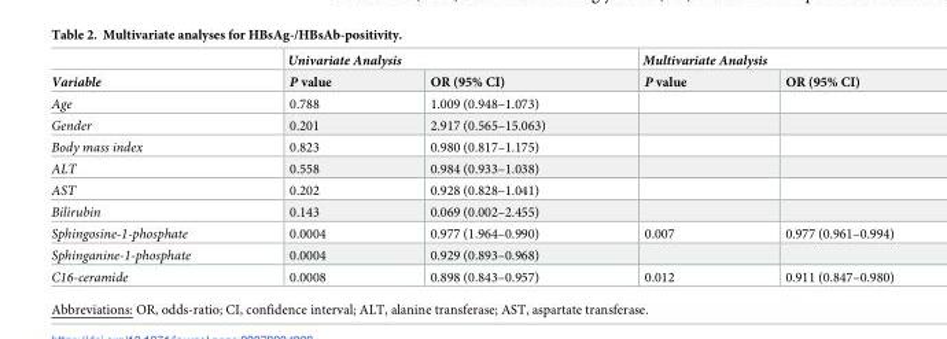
<table><thead><tr><td rowspan="2">Variable</td><td colspan="2">Univariate Analysis</td><td colspan="2">Multivariate Analysis</td></tr><tr><td>P value</td><td>OR (95% CI)</td><td>P value</td><td>OR (95% CI)</td></tr></thead><tbody><tr><td>Age</td><td>0.788</td><td>1.009 (0.948–1.073)</td><td></td><td></td></tr><tr><td>Gender</td><td>0.201</td><td>2.917 (0.565–15.063)</td><td></td><td></td></tr><tr><td>Body mass index</td><td>0.823</td><td>0.980 (0.817–1.175)</td><td></td><td></td></tr><tr><td>ALT</td><td>0.558</td><td>0.984 (0.933–1.038)</td><td></td><td></td></tr><tr><td>AST</td><td>0.202</td><td>0.928 (0.828–1.041)</td><td></td><td></td></tr><tr><td>Bilirubin</td><td>0.143</td><td>0.069 (0.002–2.455)</td><td></td><td></td></tr><tr><td>Sphingosine-1-phosphate</td><td>0.0004</td><td>0.977 (1.964–0.990)</td><td>0.007</td><td>0.977 (0.961–0.994)</td></tr><tr><td>Sphinganine-1-phosphate</td><td>0.0004</td><td>0.929 (0.893–0.968)</td><td></td><td></td></tr><tr><td>C16-ceramide</td><td>0.0008</td><td>0.898 (0.843–0.957)</td><td>0.012</td><td>0.911 (0.847–0.980)</td></tr></tbody></table>